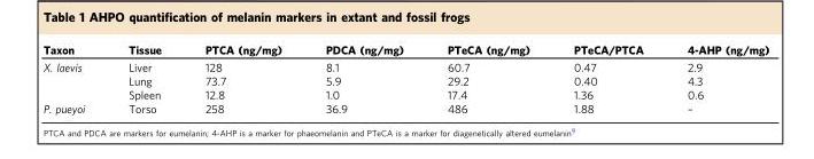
<table><thead><tr><td>Taxon</td><td>Tissue</td><td>PTCA (ng/mg)</td><td>PDCA (ng/mg)</td><td>PTeCA (ng/mg)</td><td>PTeCA/PTCA</td><td>4-AHP (ng/mg)</td></tr></thead><tbody><tr><td rowspan="3">X. laevis</td><td>Liver</td><td>128</td><td>8.1</td><td>60.7</td><td>0.47</td><td>2.9</td></tr><tr><td>Lung</td><td>73.7</td><td>5.9</td><td>29.2</td><td>0.40</td><td>4.3</td></tr><tr><td>Spleen</td><td>12.8</td><td>1.0</td><td>17.4</td><td>1.36</td><td>0.6</td></tr><tr><td>P. pueyoi</td><td>Torso</td><td>258</td><td>36.9</td><td>486</td><td>1.88</td><td>–</td></tr></tbody></table>